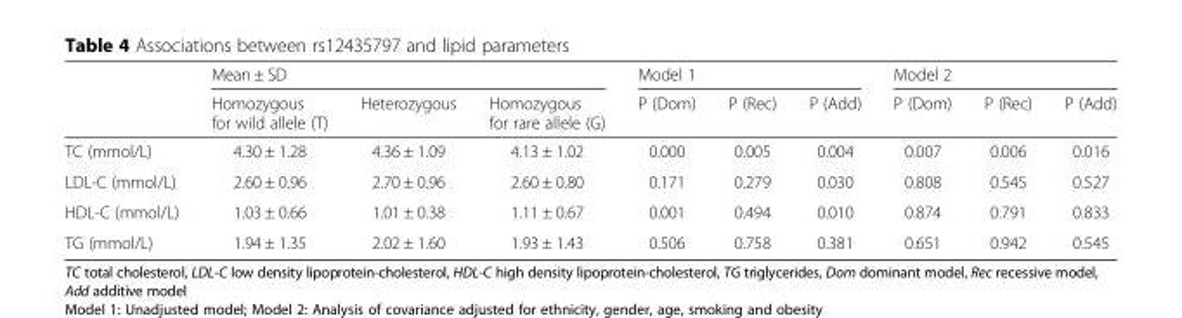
<table><thead><tr><td rowspan="2"></td><td colspan="3">Mean ± SD</td><td colspan="3">Model 1</td><td colspan="3">Model 2</td></tr><tr><td>Homozygous for wild allele (T)</td><td>Heterozygous</td><td>Homozygous for rare allele (G)</td><td>P (Dom)</td><td>P (Rec)</td><td>P (Add)</td><td>P (Dom)</td><td>P (Rec)</td><td>P (Add)</td></tr></thead><tbody><tr><td>TC (mmol/L)</td><td>4.30 ± 1.28</td><td>4.36 ± 1.09</td><td>4.13 ± 1.02</td><td>0.000</td><td>0.005</td><td>0.004</td><td>0.007</td><td>0.006</td><td>0.016</td></tr><tr><td>LDL-C (mmol/L)</td><td>2.60 ± 0.96</td><td>2.70 ± 0.96</td><td>2.60 ± 0.80</td><td>0.171</td><td>0.279</td><td>0.030</td><td>0.808</td><td>0.545</td><td>0.527</td></tr><tr><td>HDL-C (mmol/L)</td><td>1.03 ± 0.66</td><td>1.01 ± 0.38</td><td>1.11 ± 0.67</td><td>0.001</td><td>0.494</td><td>0.010</td><td>0.874</td><td>0.791</td><td>0.833</td></tr><tr><td>TG (mmol/L)</td><td>1.94 ± 1.35</td><td>2.02 ± 1.60</td><td>1.93 ± 1.43</td><td>0.506</td><td>0.758</td><td>0.381</td><td>0.651</td><td>0.942</td><td>0.545</td></tr></tbody></table>